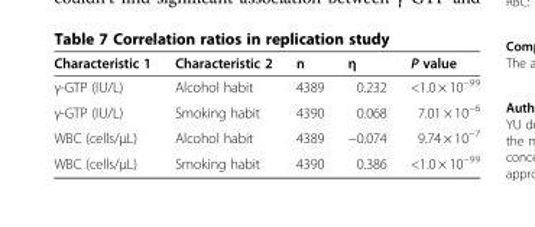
<table><thead><tr><td>Characteristic 1</td><td>Characteristic 2</td><td>n</td><td>η</td><td>P value</td></tr></thead><tbody><tr><td>γ-GTP (IU/L)</td><td>Alcohol habit</td><td>4389</td><td>0.232</td><td>&lt;1.0 × 10<sup>−99</sup></td></tr><tr><td>γ-GTP (IU/L)</td><td>Smoking habit</td><td>4390</td><td>0.068</td><td>7.01 × 10<sup>−6</sup></td></tr><tr><td>WBC (cells/μL)</td><td>Alcohol habit</td><td>4389</td><td>−0.074</td><td>9.74 × 10<sup>−7</sup></td></tr><tr><td>WBC (cells/μL)</td><td>Smoking habit</td><td>4390</td><td>0.386</td><td>&lt;1.0 × 10<sup>−99</sup></td></tr></tbody></table>